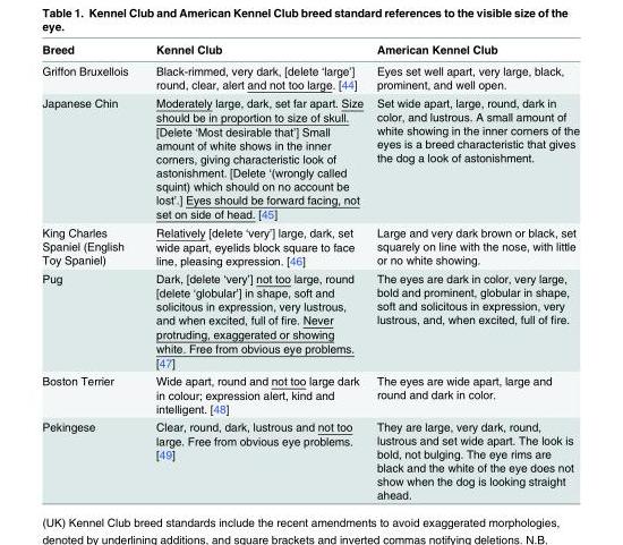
<table><thead><tr><td>Breed</td><td>Kennel Club</td><td>American Kennel Club</td></tr></thead><tbody><tr><td>Griffon Bruxellois</td><td>Black-rimmed, very dark, [delete ‘large’] round, clear, alert and not too large. [44]</td><td>Eyes set well apart, very large, black, prominent, and well open.</td></tr><tr><td>Japanese Chin</td><td>Moderately large, dark, set far apart. Size should be in proportion to size of skull. [Delete ‘Most desirable that’] Small amount of white shows in the inner corners, giving characteristic look of astonishment. [Delete ‘(wrongly called squint) which should on no account be lost’.] Eyes should be forward facing, not set on side of head. [45]</td><td>Set wide apart, large, round, dark in color, and lustrous. A small amount of white showing in the inner corners of the eyes is a breed characteristic that gives the dog a look of astonishment.</td></tr><tr><td>King Charles Spaniel (English Toy Spaniel)</td><td>Relatively [delete ‘very’] large, dark, set wide apart, eyelids block square to face line, pleasing expression. [46]</td><td>Large and very dark brown or black, set squarely on line with the nose, with little or no white showing.</td></tr><tr><td>Pug</td><td>Dark, [delete ‘very’] not too large, round [delete ‘globular’] in shape, soft and solicitous in expression, very lustrous, and when excited, full of fire. Never protruding, exaggerated or showing white. Free from obvious eye problems. [47]</td><td>The eyes are dark in color, very large, bold and prominent, globular in shape, soft and solicitous in expression, very lustrous, and, when excited, full of fire.</td></tr><tr><td>Boston Terrier</td><td>Wide apart, round and not too large dark in colour; expression alert, kind and intelligent. [48]</td><td>The eyes are wide apart, large and round and dark in color.</td></tr><tr><td>Pekingese</td><td>Clear, round, dark, lustrous and not too large. Free from obvious eye problems. [49]</td><td>They are large, very dark, round, lustrous and set wide apart. The look is bold, not bulging. The eye rims are black and the white of the eye does not show when the dog is looking straight ahead.</td></tr></tbody></table>